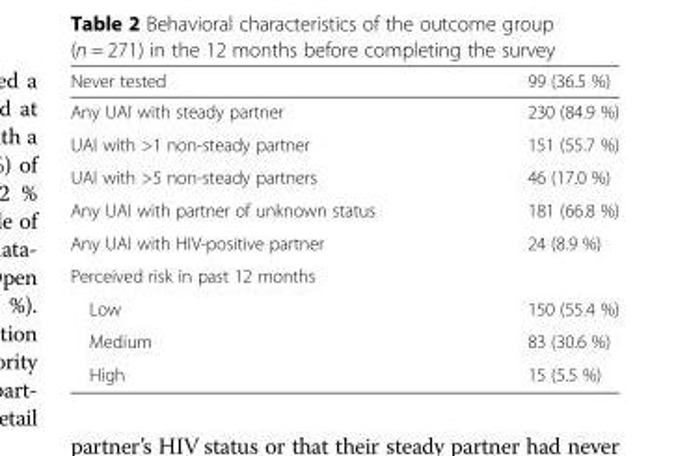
<table><thead><tr><td>Never tested</td><td>99 (36.5 %)</td></tr></thead><tbody><tr><td>Any UAI with steady partner</td><td>230 (84.9 %)</td></tr><tr><td>UAI with &gt;1 non-steady partner</td><td>151 (55.7 %)</td></tr><tr><td>UAI with &gt;5 non-steady partners</td><td>46 (17.0 %)</td></tr><tr><td>Any UAI with partner of unknown status</td><td>181 (66.8 %)</td></tr><tr><td>Any UAI with HIV-positive partner</td><td>24 (8.9 %)</td></tr><tr><td colspan="2">Perceived risk in past 12 months</td></tr><tr><td>Low</td><td>150 (55.4 %)</td></tr><tr><td>Medium</td><td>83 (30.6 %)</td></tr><tr><td>High</td><td>15 (5.5 %)</td></tr></tbody></table>